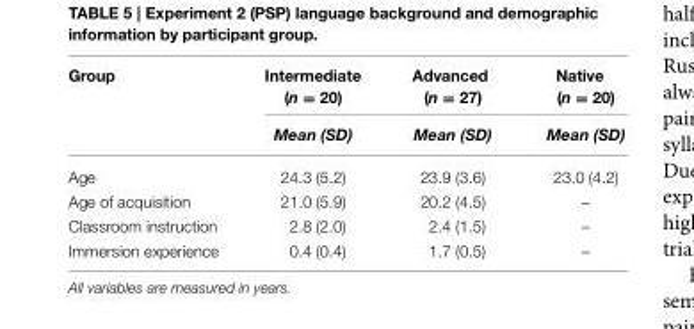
<table><thead><tr><td rowspan="2">Group</td><td rowspan="2">Intermediate (n = 20) Mean (SD)</td><td rowspan="2">Advanced (n = 27) Mean (SD)</td><td rowspan="2">Native (n = 20) Mean (SD)</td></tr><tr></tr></thead><tbody><tr><td>Age</td><td>24.3 (5.2)</td><td>23.9 (3.6)</td><td>23.0 (4.2)</td></tr><tr><td>Age of acquisition</td><td>21.0 (5.9)</td><td>20.2 (4.5)</td><td>–</td></tr><tr><td>Classroom instruction</td><td>2.8 (2.0)</td><td>2.4 (1.5)</td><td>–</td></tr><tr><td>Immersion experience</td><td>0.4 (0.4)</td><td>1.7 (0.5)</td><td>–</td></tr></tbody></table>